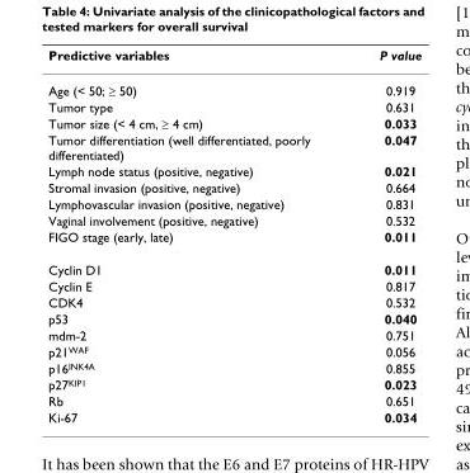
<table><thead><tr><td>Predictive variables</td><td>P value</td></tr></thead><tbody><tr><td>Age (&lt; 50; ≥ 50)</td><td>0.919</td></tr><tr><td>Tumor type</td><td>0.631</td></tr><tr><td>Tumor size (&lt; 4 cm, ≥ 4 cm)</td><td>0.033</td></tr><tr><td>Tumor differentiation (well differentiated, poorly differentiated)</td><td>0.047</td></tr><tr><td>Lymph node status (positive, negative)</td><td>0.021</td></tr><tr><td>Stromal invasion (positive, negative)</td><td>0.664</td></tr><tr><td>Lymphovascular invasion (positive, negative)</td><td>0.831</td></tr><tr><td>Vaginal involvement (positive, negative)</td><td>0.532</td></tr><tr><td>FIGO stage (early, late)</td><td>0.011</td></tr><tr><td>Cyclin D1</td><td>0.011</td></tr><tr><td>Cyclin E</td><td>0.817</td></tr><tr><td>CDK4</td><td>0.532</td></tr><tr><td>p53</td><td>0.040</td></tr><tr><td>mdm-2</td><td>0.751</td></tr><tr><td>p21WAF</td><td>0.056</td></tr><tr><td>p16INK4A</td><td>0.855</td></tr><tr><td>p27KIP1</td><td>0.023</td></tr><tr><td>Rb</td><td>0.651</td></tr><tr><td>Ki-67</td><td>0.034</td></tr></tbody></table>